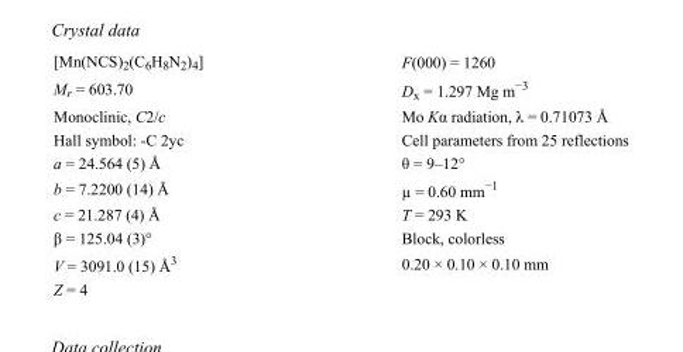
<table><tbody><tr><td>[Mn(NCS)<sub>2</sub>(C<sub>6</sub>H<sub>8</sub>N<sub>2</sub>)<sub>4</sub>]</td><td>F(000) = 1260</td></tr><tr><td>M<sub>r</sub> = 603.70</td><td>D<sub>x</sub> = 1.297 Mg m<sup>−3</sup></td></tr><tr><td>Monoclinic, C2/c</td><td>Mo Kα radiation, λ = 0.71073 Å</td></tr><tr><td>Hall symbol: -C 2yc</td><td>Cell parameters from 25 reflections</td></tr><tr><td>a = 24.564 (5) Å</td><td>θ = 9–12°</td></tr><tr><td>b = 7.2200 (14) Å</td><td>µ = 0.60 mm<sup>−1</sup></td></tr><tr><td>c = 21.287 (4) Å</td><td>T = 293 K</td></tr><tr><td>β = 125.04 (3)°</td><td>Block, colorless</td></tr><tr><td>V = 3091.0 (15) Å<sup>3</sup></td><td>0.20 × 0.10 × 0.10 mm</td></tr><tr><td>Z = 4</td><td></td></tr></tbody></table>